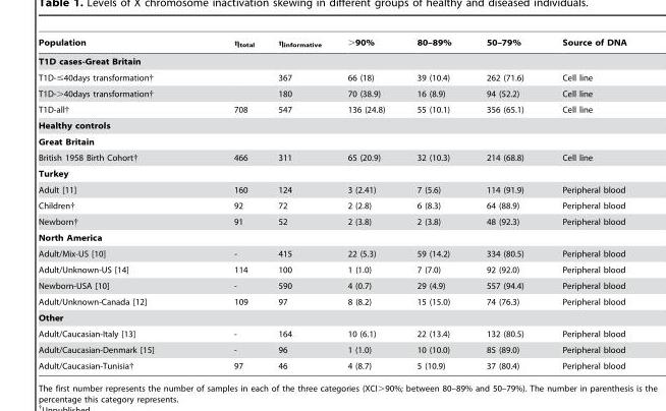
<table><thead><tr><td>Population</td><td>η<sub>total</sub></td><td>η<sub>informative</sub></td><td>&gt;90%</td><td>80–89%</td><td>50–79%</td><td>Source of DNA</td></tr></thead><tbody><tr><td colspan="7">T1D cases-Great Britain</td></tr><tr><td>T1D-≤40days transformation†</td><td></td><td>367</td><td>66 (18)</td><td>39 (10.4)</td><td>262 (71.6)</td><td>Cell line</td></tr><tr><td>T1D-&gt;40days transformation†</td><td></td><td>180</td><td>70 (38.9)</td><td>16 (8.9)</td><td>94 (52.2)</td><td>Cell line</td></tr><tr><td>T1D-all†</td><td>708</td><td>547</td><td>136 (24.8)</td><td>55 (10.1)</td><td>356 (65.1)</td><td>Cell line</td></tr><tr><td colspan="7">Healthy controls</td></tr><tr><td colspan="7">Great Britain</td></tr><tr><td>British 1958 Birth Cohort†</td><td>466</td><td>311</td><td>65 (20.9)</td><td>32 (10.3)</td><td>214 (68.8)</td><td>Cell line</td></tr><tr><td colspan="7">Turkey</td></tr><tr><td>Adult [11]</td><td>160</td><td>124</td><td>3 (2.41)</td><td>7 (5.6)</td><td>114 (91.9)</td><td>Peripheral blood</td></tr><tr><td>Children†</td><td>92</td><td>72</td><td>2 (2.8)</td><td>6 (8.3)</td><td>64 (88.9)</td><td>Peripheral blood</td></tr><tr><td>Newborn†</td><td>91</td><td>52</td><td>2 (3.8)</td><td>2 (3.8)</td><td>48 (92.3)</td><td>Peripheral blood</td></tr><tr><td colspan="7">North America</td></tr><tr><td>Adult/Mix-US [10]</td><td>-</td><td>415</td><td>22 (5.3)</td><td>59 (14.2)</td><td>334 (80.5)</td><td>Peripheral blood</td></tr><tr><td>Adult/Unknown-US [14]</td><td>114</td><td>100</td><td>1 (1.0)</td><td>7 (7.0)</td><td>92 (92.0)</td><td>Peripheral blood</td></tr><tr><td>Newborn-USA [10]</td><td>-</td><td>590</td><td>4 (0.7)</td><td>29 (4.9)</td><td>557 (94.4)</td><td>Peripheral blood</td></tr><tr><td>Adult/Unknown-Canada [12]</td><td>109</td><td>97</td><td>8 (8.2)</td><td>15 (15.0)</td><td>74 (76.3)</td><td>Peripheral blood</td></tr><tr><td colspan="7">Other</td></tr><tr><td>Adult/Caucasian-Italy [13]</td><td>-</td><td>164</td><td>10 (6.1)</td><td>22 (13.4)</td><td>132 (80.5)</td><td>Peripheral blood</td></tr><tr><td>Adult/Caucasian-Denmark [15]</td><td>-</td><td>96</td><td>1 (1.0)</td><td>10 (10.0)</td><td>85 (89.0)</td><td>Peripheral blood</td></tr><tr><td>Adult/Caucasian-Tunisia†</td><td>97</td><td>46</td><td>4 (8.7)</td><td>5 (10.9)</td><td>37 (80.4)</td><td>Peripheral blood</td></tr></tbody></table>